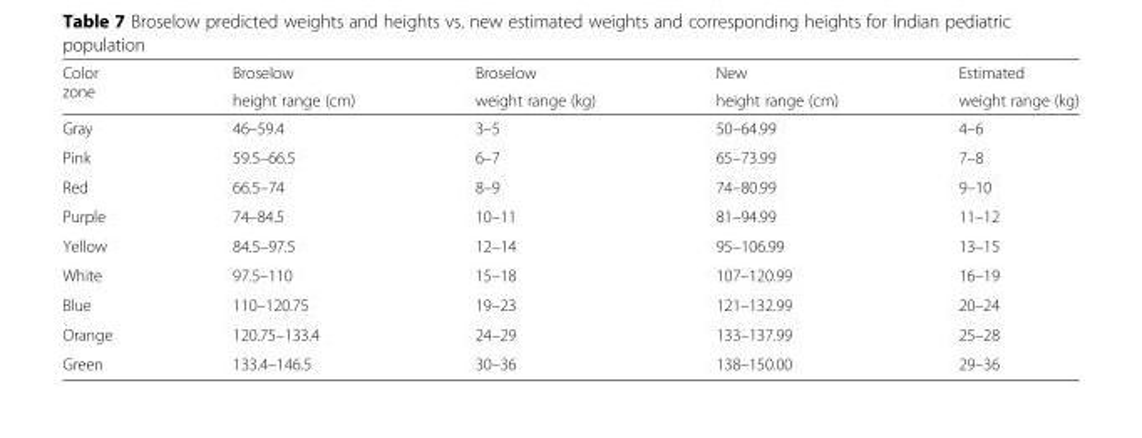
<table><thead><tr><td rowspan="2">Color zone</td><td rowspan="2">Broselow height range (cm)</td><td rowspan="2">Broselow weight range (kg)</td><td rowspan="2">New height range (cm)</td><td rowspan="2">Estimated weight range (kg)</td></tr><tr></tr></thead><tbody><tr><td>Gray</td><td>46–59.4</td><td>3–5</td><td>50–64.99</td><td>4–6</td></tr><tr><td>Pink</td><td>59.5–66.5</td><td>6–7</td><td>65–73.99</td><td>7–8</td></tr><tr><td>Red</td><td>66.5–74</td><td>8–9</td><td>74–80.99</td><td>9–10</td></tr><tr><td>Purple</td><td>74–84.5</td><td>10–11</td><td>81–94.99</td><td>11–12</td></tr><tr><td>Yellow</td><td>84.5–97.5</td><td>12–14</td><td>95–106.99</td><td>13–15</td></tr><tr><td>White</td><td>97.5–110</td><td>15–18</td><td>107–120.99</td><td>16–19</td></tr><tr><td>Blue</td><td>110–120.75</td><td>19–23</td><td>121–132.99</td><td>20–24</td></tr><tr><td>Orange</td><td>120.75–133.4</td><td>24–29</td><td>133–137.99</td><td>25–28</td></tr><tr><td>Green</td><td>133.4–146.5</td><td>30–36</td><td>138–150.00</td><td>29–36</td></tr></tbody></table>